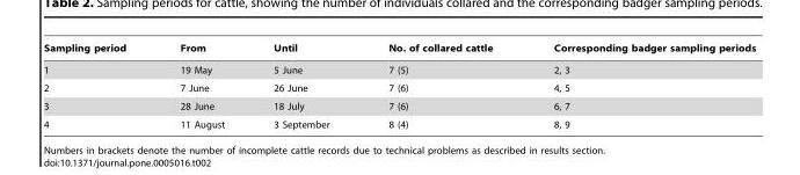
<table><thead><tr><td>Sampling period</td><td>From</td><td>Until</td><td>No. of collared cattle</td><td>Corresponding badger sampling periods</td></tr></thead><tbody><tr><td>1</td><td>19 May</td><td>5 June</td><td>7 (5)</td><td>2, 3</td></tr><tr><td>2</td><td>7 June</td><td>26 June</td><td>7 (6)</td><td>4, 5</td></tr><tr><td>3</td><td>28 June</td><td>18 July</td><td>7 (6)</td><td>6, 7</td></tr><tr><td>4</td><td>11 August</td><td>3 September</td><td>8 (4)</td><td>8, 9</td></tr></tbody></table>